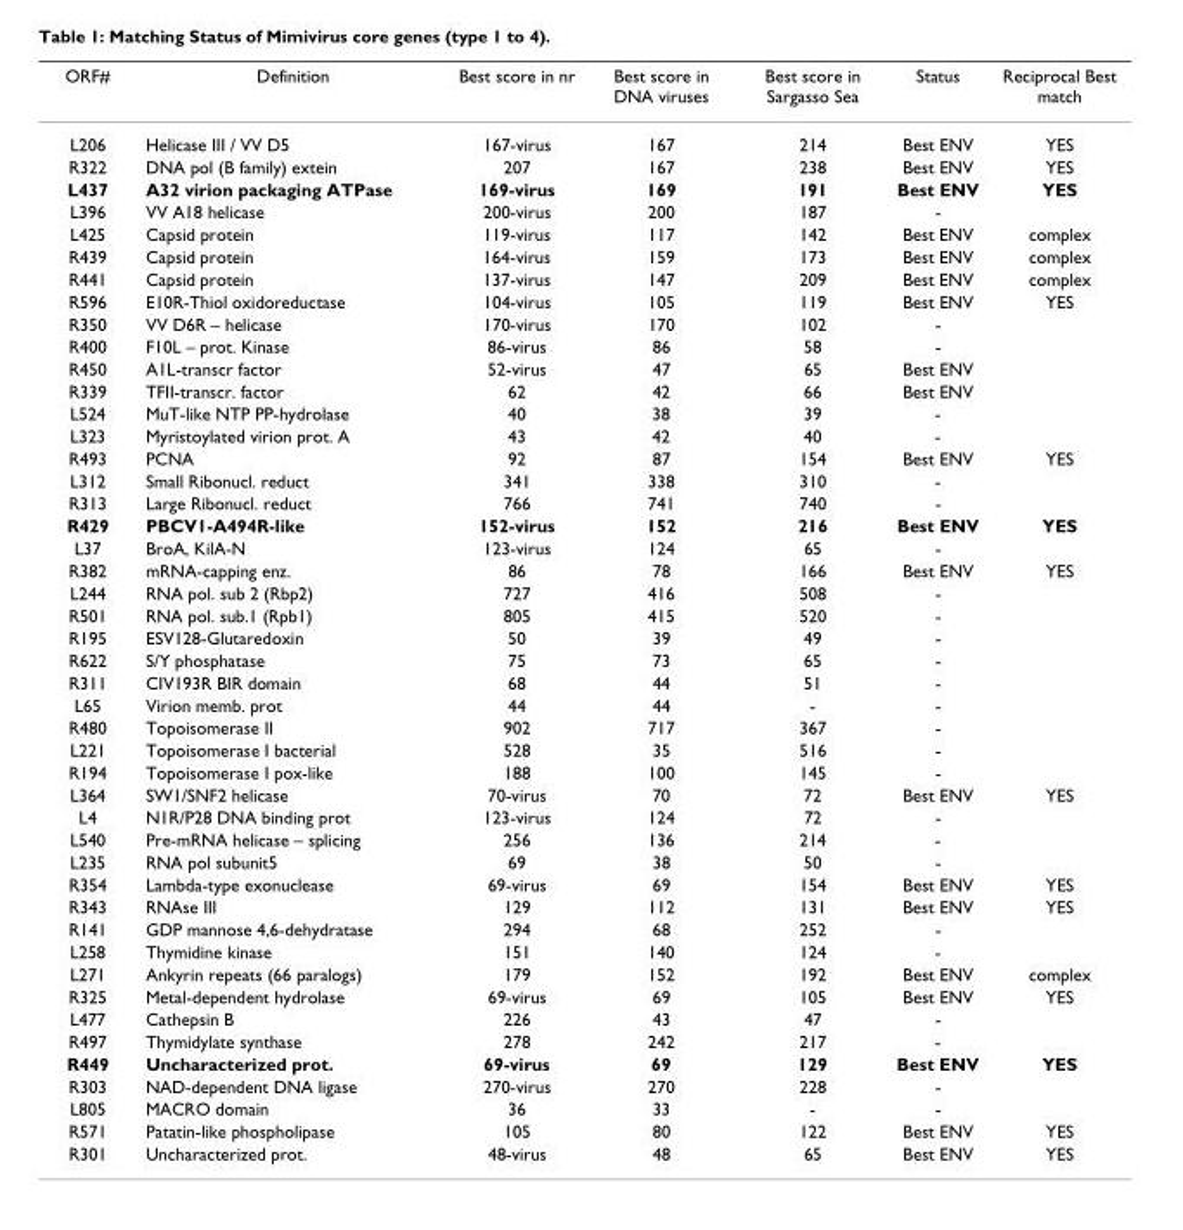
<table><thead><tr><td>ORF#</td><td>Definition</td><td>Best score in nr</td><td>Best score in DNA viruses</td><td>Best score in Sargasso Sea</td><td>Status</td><td>Reciprocal Best match</td></tr></thead><tbody><tr><td>L206</td><td>Helicase III / VV D5</td><td>167-virus</td><td>167</td><td>214</td><td>Best ENV</td><td>YES</td></tr><tr><td>R322</td><td>DNA pol (B family) extein</td><td>207</td><td>167</td><td>238</td><td>Best ENV</td><td>YES</td></tr><tr><td>L437</td><td>A32 virion packaging ATPase</td><td>169-virus</td><td>169</td><td>191</td><td>Best ENV</td><td>YES</td></tr><tr><td>L396</td><td>VV A18 helicase</td><td>200-virus</td><td>200</td><td>187</td><td>-</td><td></td></tr><tr><td>L425</td><td>Capsid protein</td><td>119-virus</td><td>117</td><td>142</td><td>Best ENV</td><td>complex</td></tr><tr><td>R439</td><td>Capsid protein</td><td>164-virus</td><td>159</td><td>173</td><td>Best ENV</td><td>complex</td></tr><tr><td>R441</td><td>Capsid protein</td><td>137-virus</td><td>147</td><td>209</td><td>Best ENV</td><td>complex</td></tr><tr><td>R596</td><td>E10R-Thiol oxidoreductase</td><td>104-virus</td><td>105</td><td>119</td><td>Best ENV</td><td>YES</td></tr><tr><td>R350</td><td>VV D6R – helicase</td><td>170-virus</td><td>170</td><td>102</td><td>-</td><td></td></tr><tr><td>R400</td><td>F10L – prot. Kinase</td><td>86-virus</td><td>86</td><td>58</td><td>-</td><td></td></tr><tr><td>R450</td><td>A1L-transcr factor</td><td>52-virus</td><td>47</td><td>65</td><td>Best ENV</td><td></td></tr><tr><td>R339</td><td>TFII-transcr. factor</td><td>62</td><td>42</td><td>66</td><td>Best ENV</td><td></td></tr><tr><td>L524</td><td>MuT-like NTP PP-hydrolase</td><td>40</td><td>38</td><td>39</td><td>-</td><td></td></tr><tr><td>L323</td><td>Myristoylated virion prot. A</td><td>43</td><td>42</td><td>40</td><td>-</td><td></td></tr><tr><td>R493</td><td>PCNA</td><td>92</td><td>87</td><td>154</td><td>Best ENV</td><td>YES</td></tr><tr><td>L312</td><td>Small Ribonucl. reduct</td><td>341</td><td>338</td><td>310</td><td>-</td><td></td></tr><tr><td>R313</td><td>Large Ribonucl. reduct</td><td>766</td><td>741</td><td>740</td><td>-</td><td></td></tr><tr><td>R429</td><td>PBCV1-A494R-like</td><td>152-virus</td><td>152</td><td>216</td><td>Best ENV</td><td>YES</td></tr><tr><td>L37</td><td>BroA, KilA-N</td><td>123-virus</td><td>124</td><td>65</td><td>-</td><td></td></tr><tr><td>R382</td><td>mRNA-capping enz.</td><td>86</td><td>78</td><td>166</td><td>Best ENV</td><td>YES</td></tr><tr><td>L244</td><td>RNA pol. sub 2 (Rbp2)</td><td>727</td><td>416</td><td>508</td><td>-</td><td></td></tr><tr><td>R501</td><td>RNA pol. sub.1 (Rpb1)</td><td>805</td><td>415</td><td>520</td><td>-</td><td></td></tr><tr><td>R195</td><td>ESV128-Glutaredoxin</td><td>50</td><td>39</td><td>49</td><td>-</td><td></td></tr><tr><td>R622</td><td>S/Y phosphatase</td><td>75</td><td>73</td><td>65</td><td>-</td><td></td></tr><tr><td>R311</td><td>CIV193R BIR domain</td><td>68</td><td>44</td><td>51</td><td>-</td><td></td></tr><tr><td>L65</td><td>Virion memb. prot</td><td>44</td><td>44</td><td>-</td><td>-</td><td></td></tr><tr><td>R480</td><td>Topoisomerase II</td><td>902</td><td>717</td><td>367</td><td>-</td><td></td></tr><tr><td>L221</td><td>Topoisomerase I bacterial</td><td>528</td><td>35</td><td>516</td><td>-</td><td></td></tr><tr><td>R194</td><td>Topoisomerase I pox-like</td><td>188</td><td>100</td><td>145</td><td>-</td><td></td></tr><tr><td>L364</td><td>SW1/SNF2 helicase</td><td>70-virus</td><td>70</td><td>72</td><td>Best ENV</td><td>YES</td></tr><tr><td>L4</td><td>N1R/P28 DNA binding prot</td><td>123-virus</td><td>124</td><td>72</td><td>-</td><td></td></tr><tr><td>L540</td><td>Pre-mRNA helicase – splicing</td><td>256</td><td>136</td><td>214</td><td>-</td><td></td></tr><tr><td>L235</td><td>RNA pol subunit5</td><td>69</td><td>38</td><td>50</td><td>-</td><td></td></tr><tr><td>R354</td><td>Lambda-type exonuclease</td><td>69-virus</td><td>69</td><td>154</td><td>Best ENV</td><td>YES</td></tr><tr><td>R343</td><td>RNAse III</td><td>129</td><td>112</td><td>131</td><td>Best ENV</td><td>YES</td></tr><tr><td>R141</td><td>GDP mannose 4,6-dehydratase</td><td>294</td><td>68</td><td>252</td><td>-</td><td></td></tr><tr><td>L258</td><td>Thymidine kinase</td><td>151</td><td>140</td><td>124</td><td>-</td><td></td></tr><tr><td>L271</td><td>Ankyrin repeats (66 paralogs)</td><td>179</td><td>152</td><td>192</td><td>Best ENV</td><td>complex</td></tr><tr><td>R325</td><td>Metal-dependent hydrolase</td><td>69-virus</td><td>69</td><td>105</td><td>Best ENV</td><td>YES</td></tr><tr><td>L477</td><td>Cathepsin B</td><td>226</td><td>43</td><td>47</td><td>-</td><td></td></tr><tr><td>R497</td><td>Thymidylate synthase</td><td>278</td><td>242</td><td>217</td><td>-</td><td></td></tr><tr><td>R449</td><td>Uncharacterized prot.</td><td>69-virus</td><td>69</td><td>129</td><td>Best ENV</td><td>YES</td></tr><tr><td>R303</td><td>NAD-dependent DNA ligase</td><td>270-virus</td><td>270</td><td>228</td><td>-</td><td></td></tr><tr><td>L805</td><td>MACRO domain</td><td>36</td><td>33</td><td>-</td><td>-</td><td></td></tr><tr><td>R571</td><td>Patatin-like phospholipase</td><td>105</td><td>80</td><td>122</td><td>Best ENV</td><td>YES</td></tr><tr><td>R301</td><td>Uncharacterized prot.</td><td>48-virus</td><td>48</td><td>65</td><td>Best ENV</td><td>YES</td></tr></tbody></table>